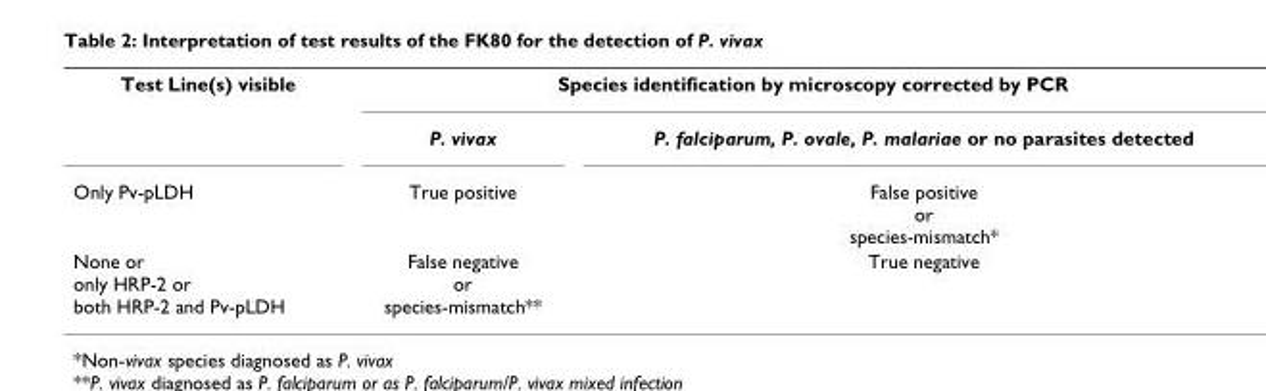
<table><tbody><tr><td rowspan="2">Test Line(s) visible</td><td colspan="2">Species identification by microscopy corrected by PCR</td></tr><tr><td>P. vivax</td><td>P. falciparum, P. ovale, P. malariae or no parasites detected</td></tr><tr><td>Only Pv-pLDH</td><td>True positive</td><td>False positive or species-mismatch*</td></tr><tr><td>None or only HRP-2 or both HRP-2 and Pv-pLDH</td><td>False negative or species-mismatch**</td><td>True negative</td></tr></tbody></table>